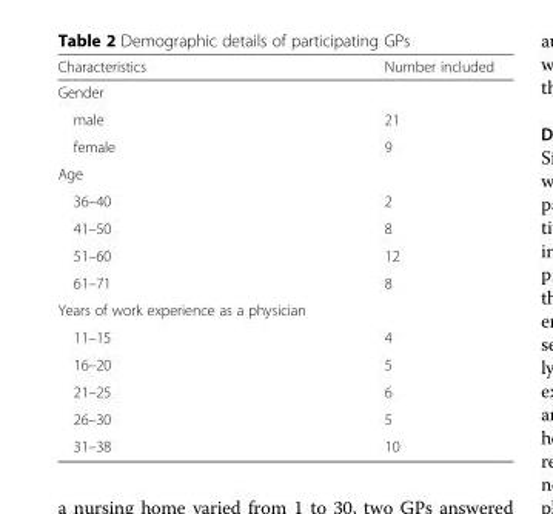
<table><thead><tr><td>Characteristics</td><td>Number included</td></tr></thead><tbody><tr><td colspan="2">Gender</td></tr><tr><td>male</td><td>21</td></tr><tr><td>female</td><td>9</td></tr><tr><td colspan="2">Age</td></tr><tr><td>36–40</td><td>2</td></tr><tr><td>41–50</td><td>8</td></tr><tr><td>51–60</td><td>12</td></tr><tr><td>61–71</td><td>8</td></tr><tr><td colspan="2">Years of work experience as a physician</td></tr><tr><td>11–15</td><td>4</td></tr><tr><td>16–20</td><td>5</td></tr><tr><td>21–25</td><td>6</td></tr><tr><td>26–30</td><td>5</td></tr><tr><td>31–38</td><td>10</td></tr></tbody></table>